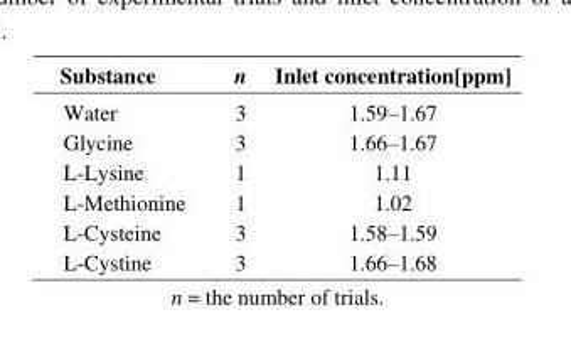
<table><thead><tr><td>Substance</td><td>n</td><td>Inlet concentration[ppm]</td></tr></thead><tbody><tr><td>Water</td><td>3</td><td>1.59–1.67</td></tr><tr><td>Glycine</td><td>3</td><td>1.66–1.67</td></tr><tr><td>L-Lysine</td><td>1</td><td>1.11</td></tr><tr><td>L-Methionine</td><td>1</td><td>1.02</td></tr><tr><td>L-Cysteine</td><td>3</td><td>1.58–1.59</td></tr><tr><td>L-Cystine</td><td>3</td><td>1.66–1.68</td></tr></tbody></table>